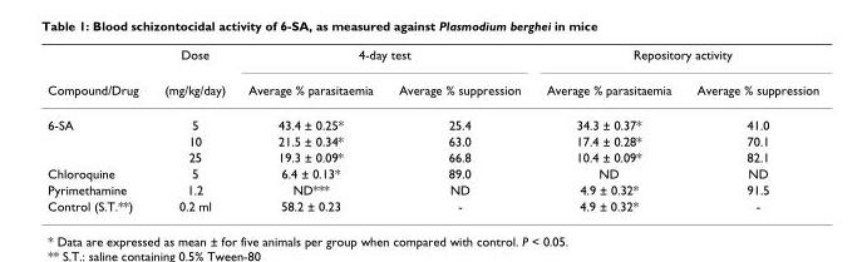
<table><thead><tr><td rowspan="2">Compound/Drug</td><td rowspan="2">Dose (mg/kg/day)</td><td colspan="2">4-day test</td><td colspan="2">Repository activity</td></tr><tr><td>Average % parasitaemia</td><td>Average % suppression</td><td>Average % parasitaemia</td><td>Average % suppression</td></tr></thead><tbody><tr><td rowspan="3">6-SA</td><td>5</td><td>43.4 ± 0.25*</td><td>25.4</td><td>34.3 ± 0.37*</td><td>41.0</td></tr><tr><td>10</td><td>21.5 ± 0.34*</td><td>63.0</td><td>17.4 ± 0.28*</td><td>70.1</td></tr><tr><td>25</td><td>19.3 ± 0.09*</td><td>66.8</td><td>10.4 ± 0.09*</td><td>82.1</td></tr><tr><td>Chloroquine</td><td>5</td><td>6.4 ± 0.13*</td><td>89.0</td><td>ND</td><td>ND</td></tr><tr><td>Pyrimethamine</td><td>1.2</td><td>ND***</td><td>ND</td><td>4.9 ± 0.32*</td><td>91.5</td></tr><tr><td>Control (S.T.**)</td><td>0.2 ml</td><td>58.2 ± 0.23</td><td>-</td><td>4.9 ± 0.32*</td><td>-</td></tr></tbody></table>